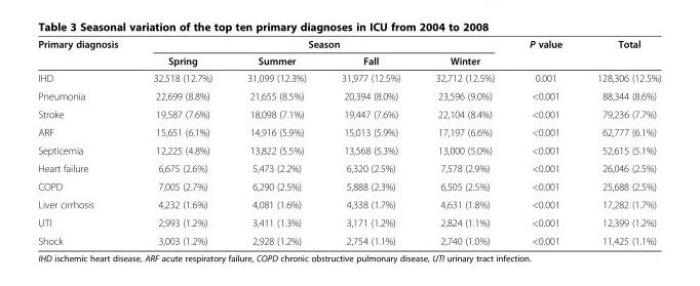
<table><thead><tr><td rowspan="2">Primary diagnosis</td><td colspan="4">Season</td><td rowspan="2">P value</td><td rowspan="2">Total</td></tr><tr><td>Spring</td><td>Summer</td><td>Fall</td><td>Winter</td></tr></thead><tbody><tr><td>IHD</td><td>32,518 (12.7%)</td><td>31,099 (12.3%)</td><td>31,977 (12.5%)</td><td>32,712 (12.5%)</td><td>0.001</td><td>128,306 (12.5%)</td></tr><tr><td>Pneumonia</td><td>22,699 (8.8%)</td><td>21,655 (8.5%)</td><td>20,394 (8.0%)</td><td>23,596 (9.0%)</td><td>&lt;0.001</td><td>88,344 (8.6%)</td></tr><tr><td>Stroke</td><td>19,587 (7.6%)</td><td>18,098 (7.1%)</td><td>19,447 (7.6%)</td><td>22,104 (8.4%)</td><td>&lt;0.001</td><td>79,236 (7.7%)</td></tr><tr><td>ARF</td><td>15,651 (6.1%)</td><td>14,916 (5.9%)</td><td>15,013 (5.9%)</td><td>17,197 (6.6%)</td><td>&lt;0.001</td><td>62,777 (6.1%)</td></tr><tr><td>Septicemia</td><td>12,225 (4.8%)</td><td>13,822 (5.5%)</td><td>13,568 (5.3%)</td><td>13,000 (5.0%)</td><td>&lt;0.001</td><td>52,615 (5.1%)</td></tr><tr><td>Heart failure</td><td>6,675 (2.6%)</td><td>5,473 (2.2%)</td><td>6,320 (2.5%)</td><td>7,578 (2.9%)</td><td>&lt;0.001</td><td>26,046 (2.5%)</td></tr><tr><td>COPD</td><td>7,005 (2.7%)</td><td>6,290 (2.5%)</td><td>5,888 (2.3%)</td><td>6,505 (2.5%)</td><td>&lt;0.001</td><td>25,688 (2.5%)</td></tr><tr><td>Liver cirrhosis</td><td>4,232 (1.6%)</td><td>4,081 (1.6%)</td><td>4,338 (1.7%)</td><td>4,631 (1.8%)</td><td>&lt;0.001</td><td>17,282 (1.7%)</td></tr><tr><td>UTI</td><td>2,993 (1.2%)</td><td>3,411 (1.3%)</td><td>3,171 (1.2%)</td><td>2,824 (1.1%)</td><td>&lt;0.001</td><td>12,399 (1.2%)</td></tr><tr><td>Shock</td><td>3,003 (1.2%)</td><td>2,928 (1.2%)</td><td>2,754 (1.1%)</td><td>2,740 (1.0%)</td><td>&lt;0.001</td><td>11,425 (1.1%)</td></tr></tbody></table>